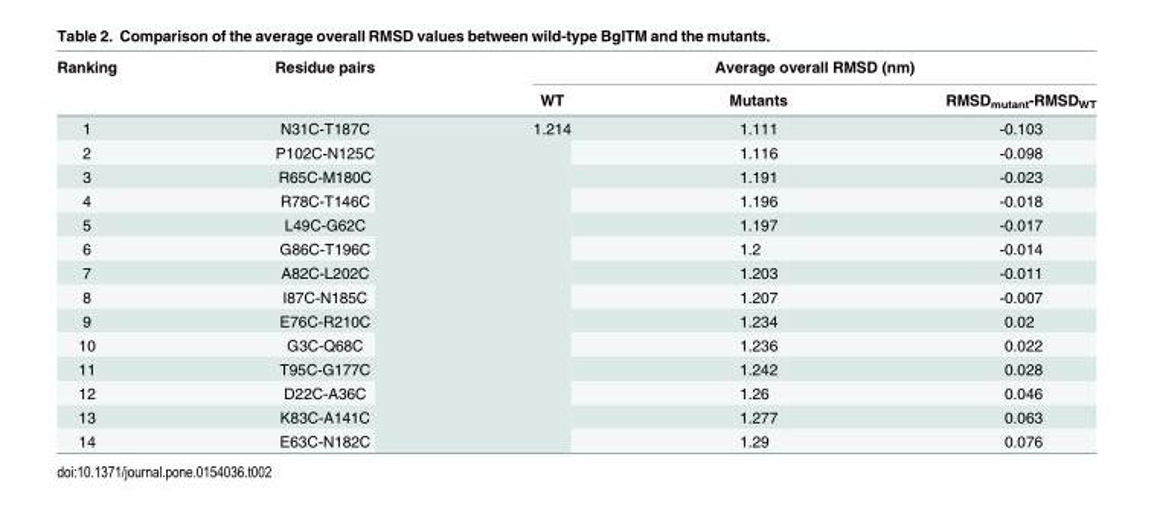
<table><thead><tr><td rowspan="2">Ranking</td><td rowspan="2">Residue pairs</td><td colspan="3">Average overall RMSD (nm)</td></tr><tr><td>WT</td><td>Mutants</td><td>RMSD<sub>mutant</sub>-RMSD<sub>WT</sub></td></tr></thead><tbody><tr><td>1</td><td>N31C-T187C</td><td rowspan="14">1.214</td><td>1.111</td><td>-0.103</td></tr><tr><td>2</td><td>P102C-N125C</td><td>1.116</td><td>-0.098</td></tr><tr><td>3</td><td>R65C-M180C</td><td>1.191</td><td>-0.023</td></tr><tr><td>4</td><td>R78C-T146C</td><td>1.196</td><td>-0.018</td></tr><tr><td>5</td><td>L49C-G62C</td><td>1.197</td><td>-0.017</td></tr><tr><td>6</td><td>G86C-T196C</td><td>1.2</td><td>-0.014</td></tr><tr><td>7</td><td>A82C-L202C</td><td>1.203</td><td>-0.011</td></tr><tr><td>8</td><td>I87C-N185C</td><td>1.207</td><td>-0.007</td></tr><tr><td>9</td><td>E76C-R210C</td><td>1.234</td><td>0.02</td></tr><tr><td>10</td><td>G3C-Q68C</td><td>1.236</td><td>0.022</td></tr><tr><td>11</td><td>T95C-G177C</td><td>1.242</td><td>0.028</td></tr><tr><td>12</td><td>D22C-A36C</td><td>1.26</td><td>0.046</td></tr><tr><td>13</td><td>K83C-A141C</td><td>1.277</td><td>0.063</td></tr><tr><td>14</td><td>E63C-N182C</td><td>1.29</td><td>0.076</td></tr></tbody></table>